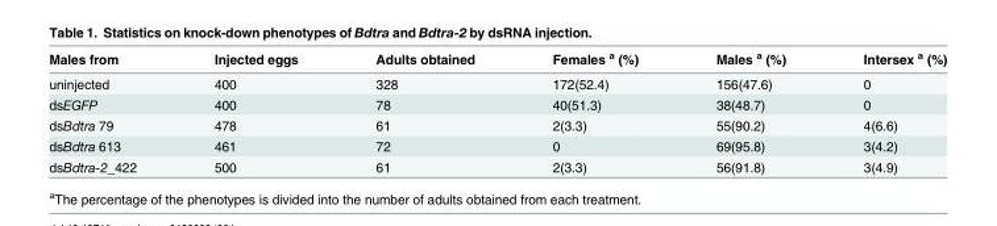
<table><thead><tr><td>Males from</td><td>Injected eggs</td><td>Adults obtained</td><td>Females <sup>a</sup> (%)</td><td>Males <sup>a</sup> (%)</td><td>Intersex <sup>a</sup> (%)</td></tr></thead><tbody><tr><td>uninjected</td><td>400</td><td>328</td><td>172(52.4)</td><td>156(47.6)</td><td>0</td></tr><tr><td>dsEGFP</td><td>400</td><td>78</td><td>40(51.3)</td><td>38(48.7)</td><td>0</td></tr><tr><td>dsBdtra 79</td><td>478</td><td>61</td><td>2(3.3)</td><td>55(90.2)</td><td>4(6.6)</td></tr><tr><td>dsBdtra 613</td><td>461</td><td>72</td><td>0</td><td>69(95.8)</td><td>3(4.2)</td></tr><tr><td>dsBdtra-2_422</td><td>500</td><td>61</td><td>2(3.3)</td><td>56(91.8)</td><td>3(4.9)</td></tr></tbody></table>